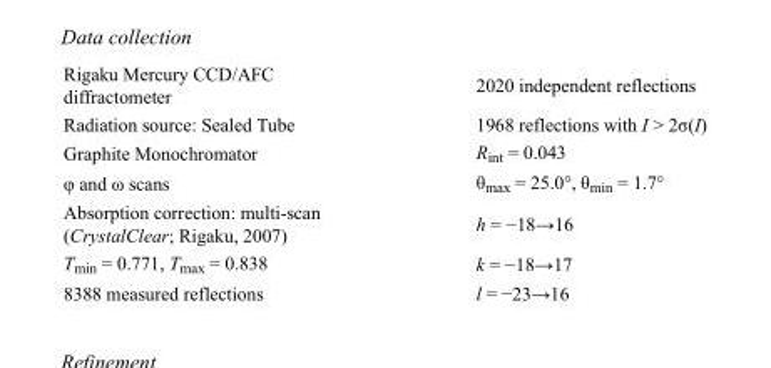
<table><tbody><tr><td>Rigaku Mercury CCD/AFC diffractometer</td><td>2020 independent reflections</td></tr><tr><td>Radiation source: Sealed Tube</td><td>1968 reflections with I &gt; 2σ(I)</td></tr><tr><td>Graphite Monochromator</td><td>R<sub>int</sub> = 0.043</td></tr><tr><td>φ and ω scans</td><td>θ<sub>max</sub> = 25.0°, θ<sub>min</sub> = 1.7°</td></tr><tr><td>Absorption correction: multi-scan (CrystalClear; Rigaku, 2007)</td><td>h = −18→16</td></tr><tr><td>T<sub>min</sub> = 0.771, T<sub>max</sub> = 0.838</td><td>k = −18→17</td></tr><tr><td>8388 measured reflections</td><td>l = −23→16</td></tr></tbody></table>